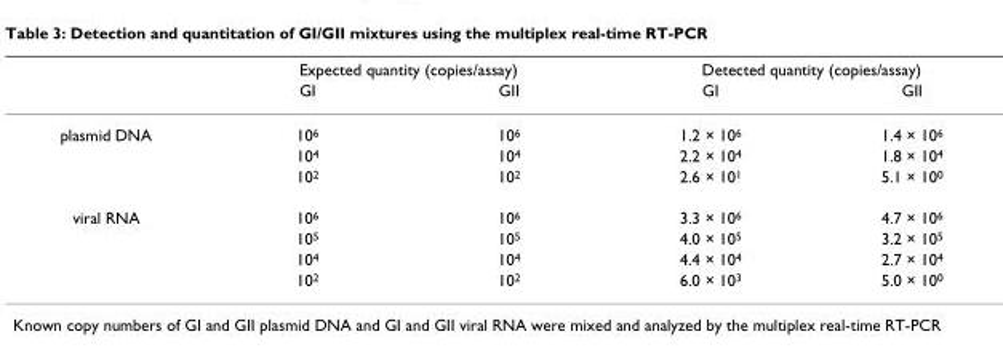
<table><thead><tr><td rowspan="2"></td><td colspan="2">Expected quantity (copies/assay)</td><td colspan="2">Detected quantity (copies/assay)</td></tr><tr><td>GI</td><td>GII</td><td>GI</td><td>GII</td></tr></thead><tbody><tr><td rowspan="3">plasmid DNA</td><td>10<sup>6</sup></td><td>10<sup>6</sup></td><td>1.2 × 10<sup>6</sup></td><td>1.4 × 10<sup>6</sup></td></tr><tr><td>10<sup>4</sup></td><td>10<sup>4</sup></td><td>2.2 × 10<sup>4</sup></td><td>1.8 × 10<sup>4</sup></td></tr><tr><td>10<sup>2</sup></td><td>10<sup>2</sup></td><td>2.6 × 10<sup>1</sup></td><td>5.1 × 10<sup>0</sup></td></tr><tr><td rowspan="4">viral RNA</td><td>10<sup>6</sup></td><td>10<sup>6</sup></td><td>3.3 × 10<sup>6</sup></td><td>4.7 × 10<sup>6</sup></td></tr><tr><td>10<sup>5</sup></td><td>10<sup>5</sup></td><td>4.0 × 10<sup>5</sup></td><td>3.2 × 10<sup>5</sup></td></tr><tr><td>10<sup>4</sup></td><td>10<sup>4</sup></td><td>4.4 × 10<sup>4</sup></td><td>2.7 × 10<sup>4</sup></td></tr><tr><td>10<sup>2</sup></td><td>10<sup>2</sup></td><td>6.0 × 10<sup>3</sup></td><td>5.0 × 10<sup>0</sup></td></tr></tbody></table>